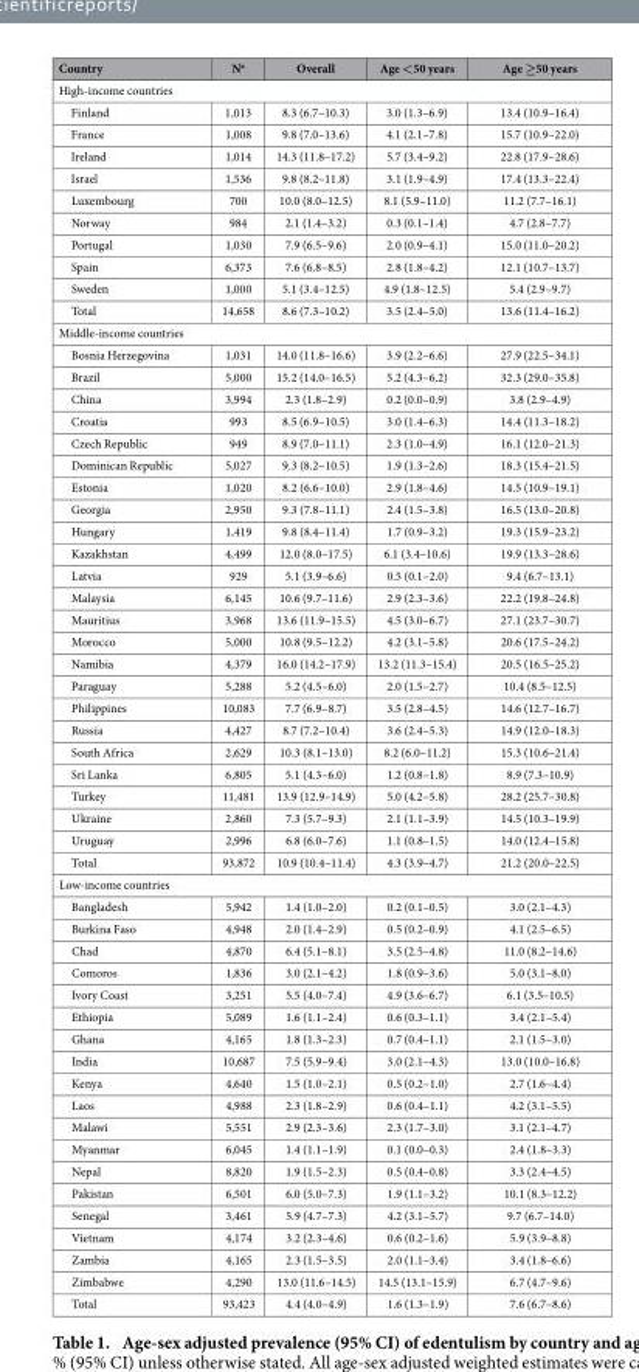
<table><thead><tr><td>Country</td><td>N<sup>a</sup></td><td>Overall</td><td>Age &lt;50 years</td><td>Age ≥50 years</td></tr></thead><tbody><tr><td colspan="5">High-income countries</td></tr><tr><td>Finland</td><td>1,013</td><td>8.3 (6.7–10.3)</td><td>3.0 (1.3–6.9)</td><td>13.4 (10.9–16.4)</td></tr><tr><td>France</td><td>1,008</td><td>9.8 (7.0–13.6)</td><td>4.1 (2.1–7.8)</td><td>15.7 (10.9–22.0)</td></tr><tr><td>Ireland</td><td>1,014</td><td>14.3 (11.8–17.2)</td><td>5.7 (3.4–9.2)</td><td>22.8 (17.9–28.6)</td></tr><tr><td>Israel</td><td>1,536</td><td>9.8 (8.2–11.8)</td><td>3.1 (1.9–4.9)</td><td>17.4 (13.3–22.4)</td></tr><tr><td>Luxembourg</td><td>700</td><td>10.0 (8.0–12.5)</td><td>8.1 (5.9–11.0)</td><td>11.2 (7.7–16.1)</td></tr><tr><td>Norway</td><td>984</td><td>2.1 (1.4–3.2)</td><td>0.3 (0.1–1.4)</td><td>4.7 (2.8–7.7)</td></tr><tr><td>Portugal</td><td>1,030</td><td>7.9 (6.5–9.6)</td><td>2.0 (0.9–4.1)</td><td>15.0 (11.0–20.2)</td></tr><tr><td>Spain</td><td>6,373</td><td>7.6 (6.8–8.5)</td><td>2.8 (1.8–4.2)</td><td>12.1 (10.7–13.7)</td></tr><tr><td>Sweden</td><td>1,000</td><td>5.1 (3.4–12.5)</td><td>4.9 (1.8–12.5)</td><td>5.4 (2.9–9.7)</td></tr><tr><td>Total</td><td>14,658</td><td>8.6 (7.3–10.2)</td><td>3.5 (2.4–5.0)</td><td>13.6 (11.4–16.2)</td></tr><tr><td colspan="5">Middle-income countries</td></tr><tr><td>Bosnia Herzegovina</td><td>1,031</td><td>14.0 (11.8–16.6)</td><td>3.9 (2.2–6.6)</td><td>27.9 (22.5–34.1)</td></tr><tr><td>Brazil</td><td>5,000</td><td>15.2 (14.0–16.5)</td><td>5.2 (4.3–6.2)</td><td>32.3 (29.0–35.8)</td></tr><tr><td>China</td><td>3,994</td><td>2.3 (1.8–2.9)</td><td>0.2 (0.0–0.9)</td><td>3.8 (2.9–4.9)</td></tr><tr><td>Croatia</td><td>993</td><td>8.5 (6.9–10.5)</td><td>3.0 (1.4–6.3)</td><td>14.4 (11.3–18.2)</td></tr><tr><td>Czech Republic</td><td>949</td><td>8.9 (7.0–11.1)</td><td>2.3 (1.0–4.9)</td><td>16.1 (12.0–21.3)</td></tr><tr><td>Dominican Republic</td><td>5,027</td><td>9.3 (8.2–10.5)</td><td>1.9 (1.3–2.6)</td><td>18.3 (15.4–21.5)</td></tr><tr><td>Estonia</td><td>1,020</td><td>8.2 (6.6–10.0)</td><td>2.9 (1.8–4.6)</td><td>14.5 (10.9–19.1)</td></tr><tr><td>Georgia</td><td>2,950</td><td>9.3 (7.8–11.1)</td><td>2.4 (1.5–3.8)</td><td>16.5 (13.0–20.8)</td></tr><tr><td>Hungary</td><td>1,419</td><td>9.8 (8.4–11.4)</td><td>1.7 (0.9–3.2)</td><td>19.3 (15.9–23.2)</td></tr><tr><td>Kazakhstan</td><td>4,499</td><td>12.0 (8.0–17.5)</td><td>6.1 (3.4–10.6)</td><td>19.9 (13.3–28.6)</td></tr><tr><td>Latvia</td><td>929</td><td>5.1 (3.9–6.6)</td><td>0.5 (0.1–2.0)</td><td>9.4 (6.7–13.1)</td></tr><tr><td>Malaysia</td><td>6,145</td><td>10.6 (9.7–11.6)</td><td>2.9 (2.3–3.6)</td><td>22.2 (19.8–24.8)</td></tr><tr><td>Mauritius</td><td>3,968</td><td>13.6 (11.9–15.5)</td><td>4.5 (3.0–6.7)</td><td>27.1 (23.7–30.7)</td></tr><tr><td>Morocco</td><td>5,000</td><td>10.8 (9.5–12.2)</td><td>4.2 (3.1–5.8)</td><td>20.6 (17.5–24.2)</td></tr><tr><td>Namibia</td><td>4,379</td><td>16.0 (14.2–17.9)</td><td>13.2 (11.3–15.4)</td><td>20.5 (16.5–25.2)</td></tr><tr><td>Paraguay</td><td>5,288</td><td>5.2 (4.5–6.0)</td><td>2.0 (1.5–2.7)</td><td>10.4 (8.5–12.5)</td></tr><tr><td>Philippines</td><td>10,083</td><td>7.7 (6.9–8.7)</td><td>3.5 (2.8–4.5)</td><td>14.6 (12.7–16.7)</td></tr><tr><td>Russia</td><td>4,427</td><td>8.7 (7.2–10.4)</td><td>3.6 (2.4–5.3)</td><td>14.9 (12.0–18.3)</td></tr><tr><td>South Africa</td><td>2,629</td><td>10.3 (8.1–13.0)</td><td>8.2 (6.0–11.2)</td><td>15.3 (10.6–21.4)</td></tr><tr><td>Sri Lanka</td><td>6,805</td><td>5.1 (4.3–6.0)</td><td>1.2 (0.8–1.8)</td><td>8.9 (7.3–10.9)</td></tr><tr><td>Turkey</td><td>11,481</td><td>13.9 (12.9–14.9)</td><td>5.0 (4.2–5.8)</td><td>28.2 (25.7–30.8)</td></tr><tr><td>Ukraine</td><td>2,860</td><td>7.3 (5.7–9.3)</td><td>2.1 (1.1–3.9)</td><td>14.5 (10.3–19.9)</td></tr><tr><td>Uruguay</td><td>2,996</td><td>6.8 (6.0–7.6)</td><td>1.1 (0.8–1.5)</td><td>14.0 (12.4–15.8)</td></tr><tr><td>Total</td><td>93,872</td><td>10.9 (10.4–11.4)</td><td>4.3 (3.9–4.7)</td><td>21.2 (20.0–22.5)</td></tr><tr><td colspan="5">Low-income countries</td></tr><tr><td>Bangladesh</td><td>5,942</td><td>1.4 (1.0–2.0)</td><td>0.2 (0.1–0.5)</td><td>3.0 (2.1–4.3)</td></tr><tr><td>Burkina Faso</td><td>4,948</td><td>2.0 (1.4–2.9)</td><td>0.5 (0.2–0.9)</td><td>4.1 (2.5–6.5)</td></tr><tr><td>Chad</td><td>4,870</td><td>6.4 (5.1–8.1)</td><td>3.5 (2.5–4.8)</td><td>11.0 (8.2–14.6)</td></tr><tr><td>Comoros</td><td>1,836</td><td>3.0 (2.1–4.2)</td><td>1.8 (0.9–3.6)</td><td>5.0 (3.1–8.0)</td></tr><tr><td>Ivory Coast</td><td>3,251</td><td>5.5 (4.0–7.4)</td><td>4.9 (3.6–6.7)</td><td>6.1 (3.5–10.5)</td></tr><tr><td>Ethiopia</td><td>5,089</td><td>1.6 (1.1–2.4)</td><td>0.6 (0.3–1.1)</td><td>3.4 (2.1–5.4)</td></tr><tr><td>Ghana</td><td>4,165</td><td>1.8 (1.3–2.3)</td><td>0.7 (0.4–1.1)</td><td>2.1 (1.5–3.0)</td></tr><tr><td>India</td><td>10,687</td><td>7.5 (5.9–9.4)</td><td>3.0 (2.1–4.3)</td><td>13.0 (10.0–16.8)</td></tr><tr><td>Kenya</td><td>4,640</td><td>1.5 (1.0–2.1)</td><td>0.5 (0.2–1.0)</td><td>2.7 (1.6–4.4)</td></tr><tr><td>Laos</td><td>4,988</td><td>2.3 (1.8–2.9)</td><td>0.6 (0.4–1.1)</td><td>4.2 (3.1–5.5)</td></tr><tr><td>Malawi</td><td>5,551</td><td>2.9 (2.3–3.6)</td><td>2.3 (1.7–3.0)</td><td>3.1 (2.1–4.7)</td></tr><tr><td>Myanmar</td><td>6,045</td><td>1.4 (1.1–1.9)</td><td>0.1 (0.0–0.3)</td><td>2.4 (1.8–3.3)</td></tr><tr><td>Nepal</td><td>8,820</td><td>1.9 (1.5–2.3)</td><td>0.5 (0.4–0.8)</td><td>3.3 (2.4–4.5)</td></tr><tr><td>Pakistan</td><td>6,501</td><td>6.0 (5.0–7.3)</td><td>1.9 (1.1–3.2)</td><td>10.1 (8.3–12.2)</td></tr><tr><td>Senegal</td><td>3,461</td><td>5.9 (4.7–7.3)</td><td>4.2 (3.1–5.7)</td><td>9.7 (6.7–14.0)</td></tr><tr><td>Vietnam</td><td>4,174</td><td>3.2 (2.3–4.6)</td><td>0.6 (0.2–1.6)</td><td>5.9 (3.9–8.8)</td></tr><tr><td>Zambia</td><td>4,165</td><td>2.3 (1.5–3.5)</td><td>2.0 (1.1–3.4)</td><td>3.4 (1.8–6.6)</td></tr><tr><td>Zimbabwe</td><td>4,290</td><td>13.0 (11.6–14.5)</td><td>14.5 (13.1–15.9)</td><td>6.7 (4.7–9.6)</td></tr><tr><td>Total</td><td>93,423</td><td>4.4 (4.0–4.9)</td><td>1.6 (1.3–1.9)</td><td>7.6 (6.7–8.6)</td></tr></tbody></table>